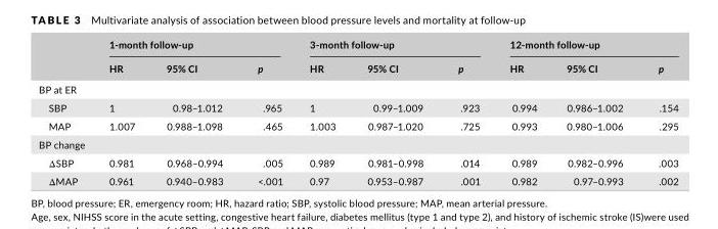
<table><thead><tr><td rowspan="2"></td><td colspan="3">1- month follow- up</td><td colspan="3">3- month follow- up</td><td colspan="3">12- month follow- up</td></tr><tr><td>HR</td><td>95% CI</td><td>p</td><td>HR</td><td>95% CI</td><td>p</td><td>HR</td><td>95% CI</td><td>p</td></tr></thead><tbody><tr><td colspan="10">BP at ER</td></tr><tr><td>SBP</td><td>1</td><td>0.98–1.012</td><td>.965</td><td>1</td><td>0.99–1.009</td><td>.923</td><td>0.994</td><td>0.986– 1.002</td><td>.154</td></tr><tr><td>MAP</td><td>1.007</td><td>0.988–1.098</td><td>.465</td><td>1.003</td><td>0.987–1.020</td><td>.725</td><td>0.993</td><td>0.980– 1.006</td><td>.295</td></tr><tr><td colspan="10">BP change</td></tr><tr><td>ΔSBP</td><td>0.981</td><td>0.968–0.994</td><td>.005</td><td>0.989</td><td>0.981–0.998</td><td>.014</td><td>0.989</td><td>0.982– 0.996</td><td>.003</td></tr><tr><td>ΔMAP</td><td>0.961</td><td>0.940–0.983</td><td>&lt;.001</td><td>0.97</td><td>0.953–0.987</td><td>.001</td><td>0.982</td><td>0.97– 0.993</td><td>.002</td></tr></tbody></table>